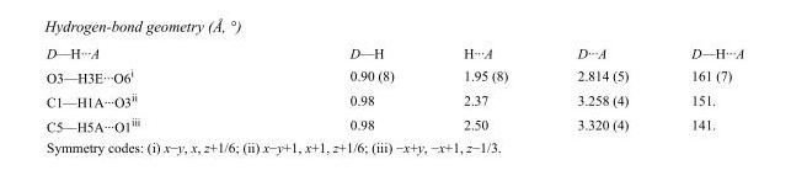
<table><tbody><tr><td>D—H···A</td><td>D—H</td><td>H···A</td><td>D···A</td><td>D—H···A</td></tr><tr><td>O3—H3E···O6<sup>i</sup></td><td>0.90 (8)</td><td>1.95 (8)</td><td>2.814 (5)</td><td>161 (7)</td></tr><tr><td>C1—H1A···O3<sup>ii</sup></td><td>0.98</td><td>2.37</td><td>3.258 (4)</td><td>151.</td></tr><tr><td>C5—H5A···O1<sup>iii</sup></td><td>0.98</td><td>2.50</td><td>3.320 (4)</td><td>141.</td></tr></tbody></table>